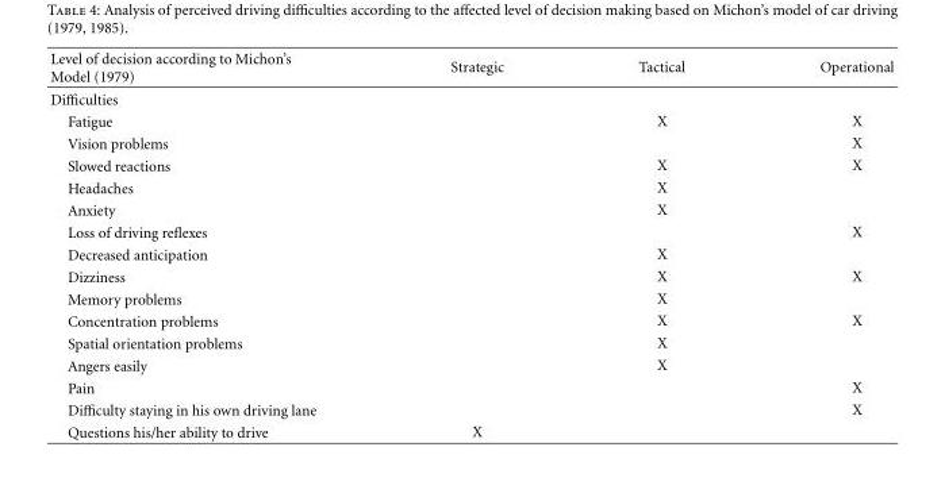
<table><thead><tr><td>Level of decision according to Michon’s Model (1979)</td><td>Strategic</td><td>Tactical</td><td>Operational</td></tr></thead><tbody><tr><td colspan="4">Difficulties</td></tr><tr><td>Fatigue</td><td></td><td>X</td><td>X</td></tr><tr><td>Vision problems</td><td></td><td></td><td>X</td></tr><tr><td>Slowed reactions</td><td></td><td>X</td><td>X</td></tr><tr><td>Headaches</td><td></td><td>X</td><td></td></tr><tr><td>Anxiety</td><td></td><td>X</td><td></td></tr><tr><td>Loss of driving reflexes</td><td></td><td></td><td>X</td></tr><tr><td>Decreased anticipation</td><td></td><td>X</td><td></td></tr><tr><td>Dizziness</td><td></td><td>X</td><td>X</td></tr><tr><td>Memory problems</td><td></td><td>X</td><td></td></tr><tr><td>Concentration problems</td><td></td><td>X</td><td>X</td></tr><tr><td>Spatial orientation problems</td><td></td><td>X</td><td></td></tr><tr><td>Angers easily</td><td></td><td>X</td><td></td></tr><tr><td>Pain</td><td></td><td></td><td>X</td></tr><tr><td>Difficulty staying in his own driving lane</td><td></td><td></td><td>X</td></tr><tr><td>Questions his/her ability to drive</td><td>X</td><td></td><td></td></tr></tbody></table>